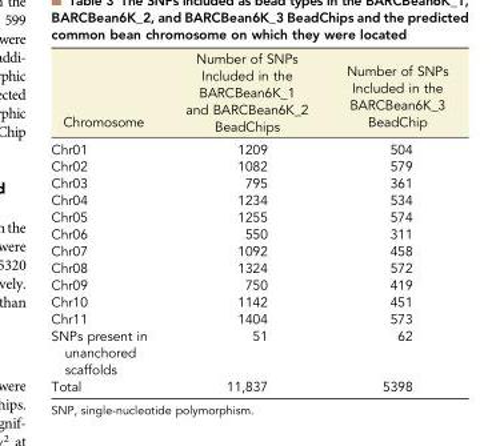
<table><thead><tr><td>Chromosome</td><td>Number of SNPs Included in the BARCBean6K_1 and BARCBean6K_2 BeadChips</td><td>Number of SNPs Included in the BARCBean6K_3 BeadChip</td></tr></thead><tbody><tr><td>Chr01</td><td>1209</td><td>504</td></tr><tr><td>Chr02</td><td>1082</td><td>579</td></tr><tr><td>Chr03</td><td>795</td><td>361</td></tr><tr><td>Chr04</td><td>1234</td><td>534</td></tr><tr><td>Chr05</td><td>1255</td><td>574</td></tr><tr><td>Chr06</td><td>550</td><td>311</td></tr><tr><td>Chr07</td><td>1092</td><td>458</td></tr><tr><td>Chr08</td><td>1324</td><td>572</td></tr><tr><td>Chr09</td><td>750</td><td>419</td></tr><tr><td>Chr10</td><td>1142</td><td>451</td></tr><tr><td>Chr11</td><td>1404</td><td>573</td></tr><tr><td>SNPs present in unanchored scaffolds</td><td>51</td><td>62</td></tr><tr><td>Total</td><td>11,837</td><td>5398</td></tr></tbody></table>